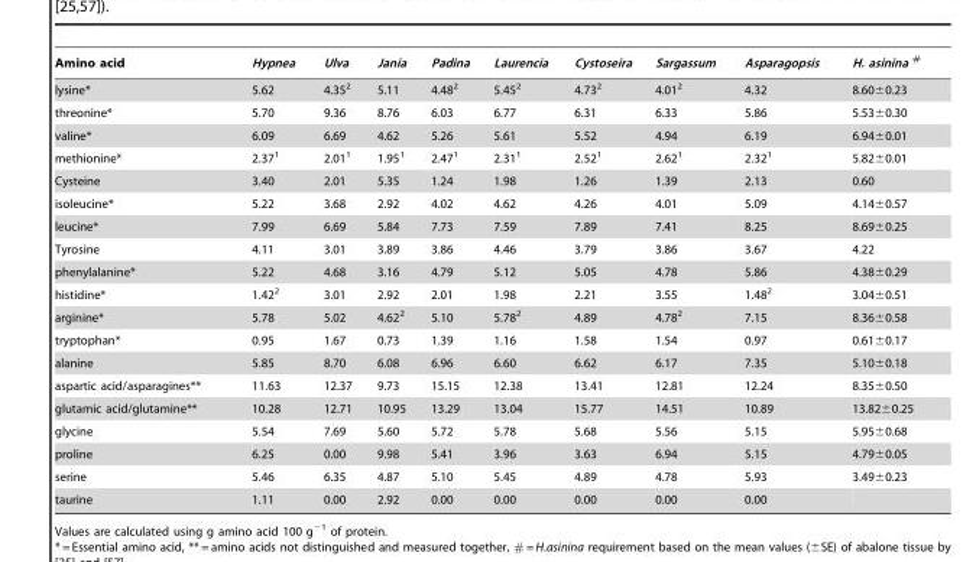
<table><thead><tr><td>Amino acid</td><td>Hypnea</td><td>Ulva</td><td>Jania</td><td>Padina</td><td>Laurencia</td><td>Cystoseira</td><td>Sargassum</td><td>Asparagopsis</td><td>H. asinina <sup>#</sup></td></tr></thead><tbody><tr><td>lysine*</td><td>5.62</td><td>4.35<sup>2</sup></td><td>5.11</td><td>4.48<sup>2</sup></td><td>5.45<sup>2</sup></td><td>4.73<sup>2</sup></td><td>4.01<sup>2</sup></td><td>4.32</td><td>8.60±0.23</td></tr><tr><td>threonine*</td><td>5.70</td><td>9.36</td><td>8.76</td><td>6.03</td><td>6.77</td><td>6.31</td><td>6.33</td><td>5.86</td><td>5.53±0.30</td></tr><tr><td>valine*</td><td>6.09</td><td>6.69</td><td>4.62</td><td>5.26</td><td>5.61</td><td>5.52</td><td>4.94</td><td>6.19</td><td>6.94±0.01</td></tr><tr><td>methionine*</td><td>2.37<sup>1</sup></td><td>2.01<sup>1</sup></td><td>1.95<sup>1</sup></td><td>2.47<sup>1</sup></td><td>2.31<sup>1</sup></td><td>2.52<sup>1</sup></td><td>2.62<sup>1</sup></td><td>2.32<sup>1</sup></td><td>5.82±0.01</td></tr><tr><td>Cysteine</td><td>3.40</td><td>2.01</td><td>5.35</td><td>1.24</td><td>1.98</td><td>1.26</td><td>1.39</td><td>2.13</td><td>0.60</td></tr><tr><td>isoleucine*</td><td>5.22</td><td>3.68</td><td>2.92</td><td>4.02</td><td>4.62</td><td>4.26</td><td>4.01</td><td>5.09</td><td>4.14±0.57</td></tr><tr><td>leucine*</td><td>7.99</td><td>6.69</td><td>5.84</td><td>7.73</td><td>7.59</td><td>7.89</td><td>7.41</td><td>8.25</td><td>8.69±0.25</td></tr><tr><td>Tyrosine</td><td>4.11</td><td>3.01</td><td>3.89</td><td>3.86</td><td>4.46</td><td>3.79</td><td>3.86</td><td>3.67</td><td>4.22</td></tr><tr><td>phenylalanine*</td><td>5.22</td><td>4.68</td><td>3.16</td><td>4.79</td><td>5.12</td><td>5.05</td><td>4.78</td><td>5.86</td><td>4.38±0.29</td></tr><tr><td>histidine*</td><td>1.42<sup>2</sup></td><td>3.01</td><td>2.92</td><td>2.01</td><td>1.98</td><td>2.21</td><td>3.55</td><td>1.48<sup>2</sup></td><td>3.04±0.51</td></tr><tr><td>arginine*</td><td>5.78</td><td>5.02</td><td>4.62<sup>2</sup></td><td>5.10</td><td>5.78<sup>2</sup></td><td>4.89</td><td>4.78<sup>2</sup></td><td>7.15</td><td>8.36±0.58</td></tr><tr><td>tryptophan*</td><td>0.95</td><td>1.67</td><td>0.73</td><td>1.39</td><td>1.16</td><td>1.58</td><td>1.54</td><td>0.97</td><td>0.61±0.17</td></tr><tr><td>alanine</td><td>5.85</td><td>8.70</td><td>6.08</td><td>6.96</td><td>6.60</td><td>6.62</td><td>6.17</td><td>7.35</td><td>5.10±0.18</td></tr><tr><td>aspartic acid/asparagines**</td><td>11.63</td><td>12.37</td><td>9.73</td><td>15.15</td><td>12.38</td><td>13.41</td><td>12.81</td><td>12.24</td><td>8.35±0.50</td></tr><tr><td>glutamic acid/glutamine**</td><td>10.28</td><td>12.71</td><td>10.95</td><td>13.29</td><td>13.04</td><td>15.77</td><td>14.51</td><td>10.89</td><td>13.82±0.25</td></tr><tr><td>glycine</td><td>5.54</td><td>7.69</td><td>5.60</td><td>5.72</td><td>5.78</td><td>5.68</td><td>5.56</td><td>5.15</td><td>5.95±0.68</td></tr><tr><td>proline</td><td>6.25</td><td>0.00</td><td>9.98</td><td>5.41</td><td>3.96</td><td>3.63</td><td>6.94</td><td>5.15</td><td>4.79±0.05</td></tr><tr><td>serine</td><td>5.46</td><td>6.35</td><td>4.87</td><td>5.10</td><td>5.45</td><td>4.89</td><td>4.78</td><td>5.93</td><td>3.49±0.23</td></tr><tr><td>taurine</td><td>1.11</td><td>0.00</td><td>2.92</td><td>0.00</td><td>0.00</td><td>0.00</td><td>0.00</td><td>0.00</td><td></td></tr></tbody></table>